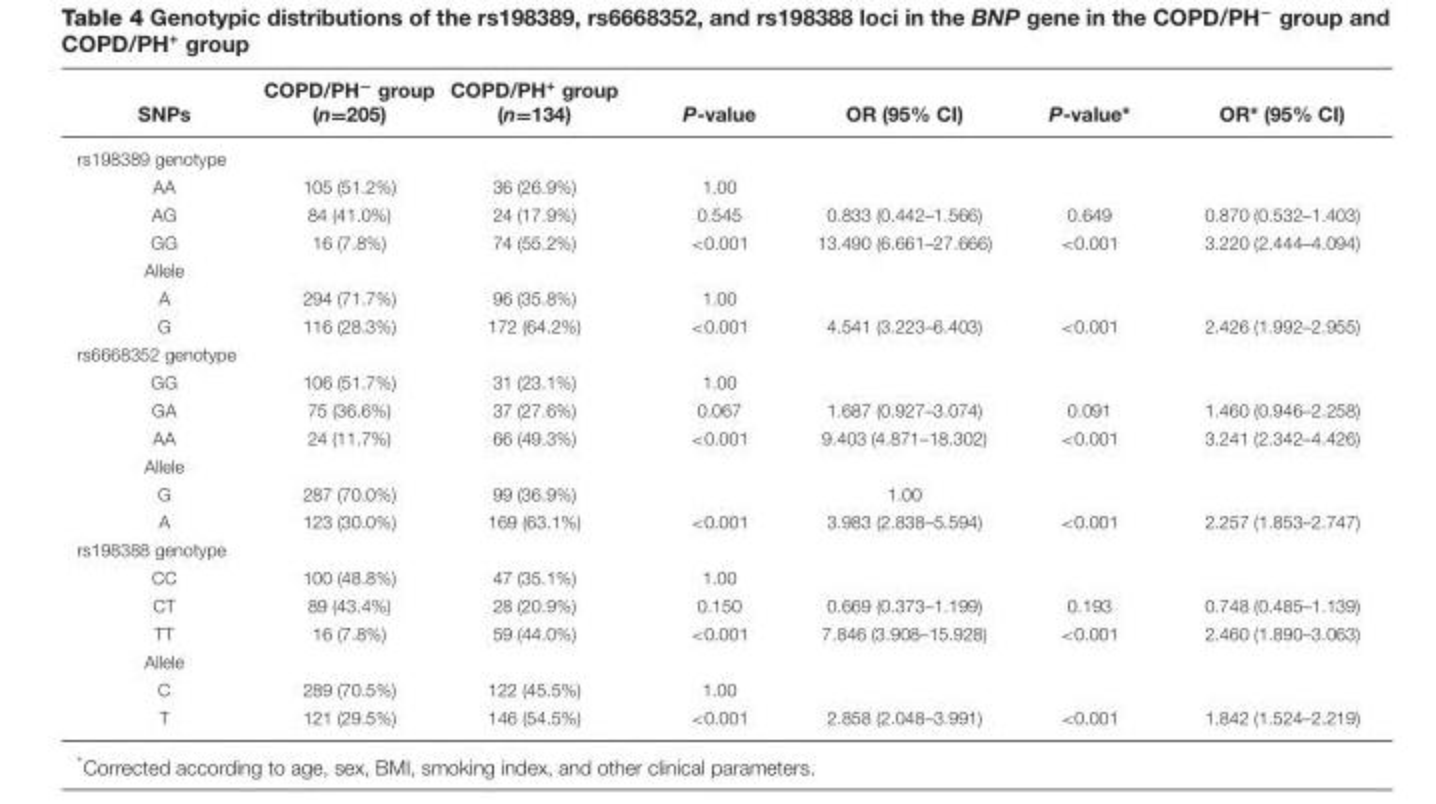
<table><thead><tr><td>SNPs</td><td>COPD/PH<sup>−</sup> group (n=205)</td><td>COPD/PH<sup>+</sup> group (n=134)</td><td>P-value</td><td>OR (95% CI)</td><td>P-value*</td><td>OR* (95% CI)</td></tr></thead><tbody><tr><td colspan="7">rs198389 genotype</td></tr><tr><td>AA</td><td>105 (51.2%)</td><td>36 (26.9%)</td><td>1.00</td><td></td><td></td><td></td></tr><tr><td>AG</td><td>84 (41.0%)</td><td>24 (17.9%)</td><td>0.545</td><td>0.833 (0.442–1.566)</td><td>0.649</td><td>0.870 (0.532–1.403)</td></tr><tr><td>GG</td><td>16 (7.8%)</td><td>74 (55.2%)</td><td>&lt;0.001</td><td>13.490 (6.661–27.666)</td><td>&lt;0.001</td><td>3.220 (2.444–4.094)</td></tr><tr><td colspan="7">Allele</td></tr><tr><td>A</td><td>294 (71.7%)</td><td>96 (35.8%)</td><td>1.00</td><td></td><td></td><td></td></tr><tr><td>G</td><td>116 (28.3%)</td><td>172 (64.2%)</td><td>&lt;0.001</td><td>4.541 (3.223–6.403)</td><td>&lt;0.001</td><td>2.426 (1.992–2.955)</td></tr><tr><td colspan="7">rs6668352 genotype</td></tr><tr><td>GG</td><td>106 (51.7%)</td><td>31 (23.1%)</td><td>1.00</td><td></td><td></td><td></td></tr><tr><td>GA</td><td>75 (36.6%)</td><td>37 (27.6%)</td><td>0.067</td><td>1.687 (0.927–3.074)</td><td>0.091</td><td>1.460 (0.946–2.258)</td></tr><tr><td>AA</td><td>24 (11.7%)</td><td>66 (49.3%)</td><td>&lt;0.001</td><td>9.403 (4.871–18.302)</td><td>&lt;0.001</td><td>3.241 (2.342–4.426)</td></tr><tr><td colspan="7">Allele</td></tr><tr><td>G</td><td>287 (70.0%)</td><td>99 (36.9%)</td><td></td><td>1.00</td><td></td><td></td></tr><tr><td>A</td><td>123 (30.0%)</td><td>169 (63.1%)</td><td>&lt;0.001</td><td>3.983 (2.838–5.594)</td><td>&lt;0.001</td><td>2.257 (1.853–2.747)</td></tr><tr><td colspan="7">rs198388 genotype</td></tr><tr><td>CC</td><td>100 (48.8%)</td><td>47 (35.1%)</td><td>1.00</td><td></td><td></td><td></td></tr><tr><td>CT</td><td>89 (43.4%)</td><td>28 (20.9%)</td><td>0.150</td><td>0.669 (0.373–1.199)</td><td>0.193</td><td>0.748 (0.485–1.139)</td></tr><tr><td>TT</td><td>16 (7.8%)</td><td>59 (44.0%)</td><td>&lt;0.001</td><td>7.846 (3.908–15.928)</td><td>&lt;0.001</td><td>2.460 (1.890–3.063)</td></tr><tr><td colspan="7">Allele</td></tr><tr><td>C</td><td>289 (70.5%)</td><td>122 (45.5%)</td><td>1.00</td><td></td><td></td><td></td></tr><tr><td>T</td><td>121 (29.5%)</td><td>146 (54.5%)</td><td>&lt;0.001</td><td>2.858 (2.048–3.991)</td><td>&lt;0.001</td><td>1.842 (1.524–2.219)</td></tr></tbody></table>